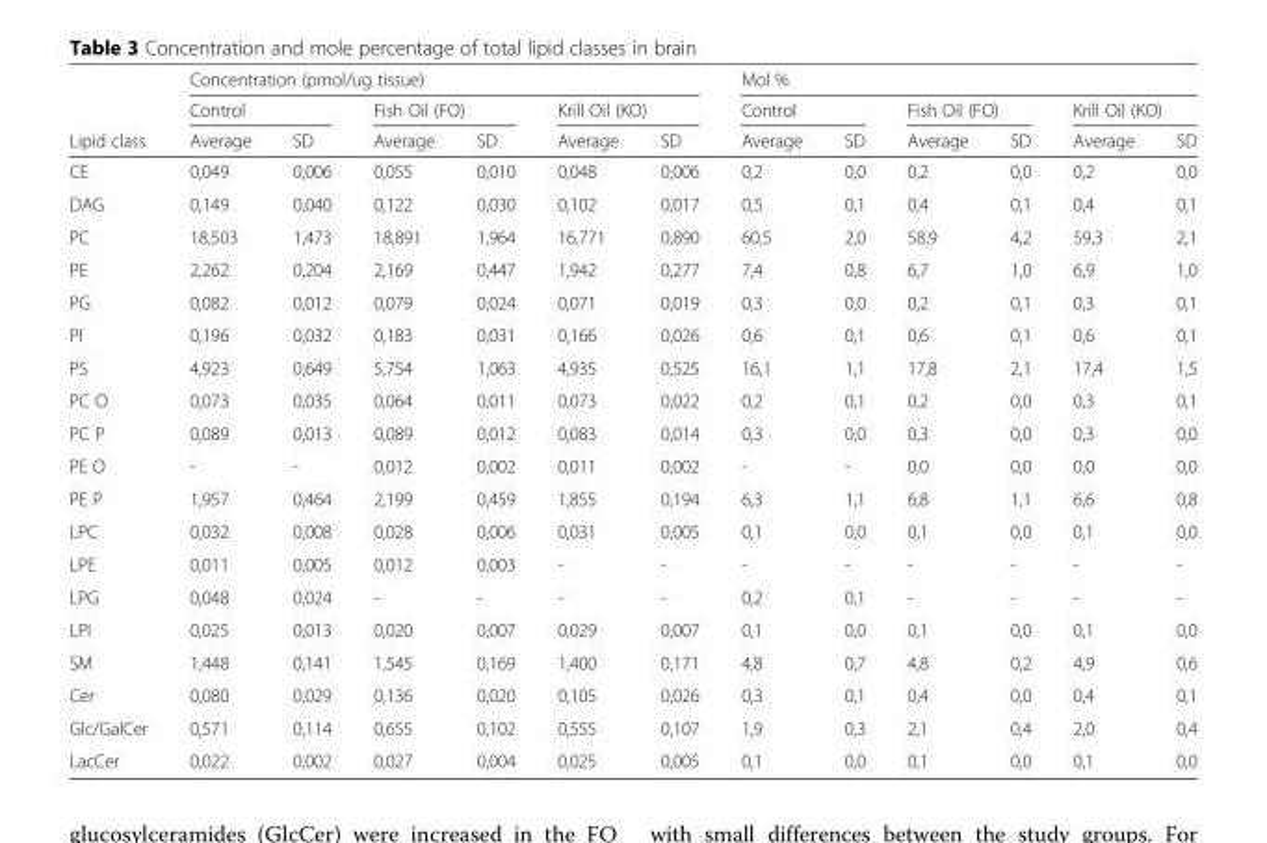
<table><thead><tr><td rowspan="3">Lipid class</td><td colspan="6">Concentration (pmol/ug tissue)</td><td colspan="6">Mol %</td></tr><tr><td colspan="2">Control</td><td colspan="2">Fish Oil (FO)</td><td colspan="2">Krill Oil (KO)</td><td colspan="2">Control</td><td colspan="2">Fish Oil (FO)</td><td colspan="2">Krill Oil (KO)</td></tr><tr><td>Average</td><td>SD</td><td>Average</td><td>SD</td><td>Average</td><td>SD</td><td>Average</td><td>SD</td><td>Average</td><td>SD</td><td>Average</td><td>SD</td></tr></thead><tbody><tr><td>CE</td><td>0,049</td><td>0,006</td><td>0,055</td><td>0,010</td><td>0,048</td><td>0,006</td><td>0,2</td><td>0,0</td><td>0,2</td><td>0,0</td><td>0,2</td><td>0,0</td></tr><tr><td>DAG</td><td>0,149</td><td>0,040</td><td>0,122</td><td>0,030</td><td>0,102</td><td>0,017</td><td>0,5</td><td>0,1</td><td>0,4</td><td>0,1</td><td>0,4</td><td>0,1</td></tr><tr><td>PC</td><td>18,503</td><td>1,473</td><td>18,891</td><td>1,964</td><td>16,771</td><td>0,890</td><td>60,5</td><td>2,0</td><td>58,9</td><td>4,2</td><td>59,3</td><td>2,1</td></tr><tr><td>PE</td><td>2,262</td><td>0,204</td><td>2,169</td><td>0,447</td><td>1,942</td><td>0,277</td><td>7,4</td><td>0,8</td><td>6,7</td><td>1,0</td><td>6,9</td><td>1,0</td></tr><tr><td>PG</td><td>0,082</td><td>0,012</td><td>0,079</td><td>0,024</td><td>0,071</td><td>0,019</td><td>0,3</td><td>0,0</td><td>0,2</td><td>0,1</td><td>0,3</td><td>0,1</td></tr><tr><td>PI</td><td>0,196</td><td>0,032</td><td>0,183</td><td>0,031</td><td>0,166</td><td>0,026</td><td>0,6</td><td>0,1</td><td>0,6</td><td>0,1</td><td>0,6</td><td>0,1</td></tr><tr><td>PS</td><td>4,923</td><td>0,649</td><td>5,754</td><td>1,063</td><td>4,935</td><td>0,525</td><td>16,1</td><td>1,1</td><td>17,8</td><td>2,1</td><td>17,4</td><td>1,5</td></tr><tr><td>PC O</td><td>0,073</td><td>0,035</td><td>0,064</td><td>0,011</td><td>0,073</td><td>0,022</td><td>0,2</td><td>0,1</td><td>0,2</td><td>0,0</td><td>0,3</td><td>0,1</td></tr><tr><td>PC P</td><td>0,089</td><td>0,013</td><td>0,089</td><td>0,012</td><td>0,083</td><td>0,014</td><td>0,3</td><td>0,0</td><td>0,3</td><td>0,0</td><td>0,3</td><td>0,0</td></tr><tr><td>PE O</td><td>-</td><td>-</td><td>0,012</td><td>0,002</td><td>0,011</td><td>0,002</td><td>-</td><td>-</td><td>0,0</td><td>0,0</td><td>0,0</td><td>0,0</td></tr><tr><td>PE P</td><td>1,957</td><td>0,464</td><td>2,199</td><td>0,459</td><td>1,855</td><td>0,194</td><td>6,3</td><td>1,1</td><td>6,8</td><td>1,1</td><td>6,6</td><td>0,8</td></tr><tr><td>LPC</td><td>0,032</td><td>0,008</td><td>0,028</td><td>0,006</td><td>0,031</td><td>0,005</td><td>0,1</td><td>0,0</td><td>0,1</td><td>0,0</td><td>0,1</td><td>0,0</td></tr><tr><td>LPE</td><td>0,011</td><td>0,005</td><td>0,012</td><td>0,003</td><td>-</td><td>-</td><td>-</td><td>-</td><td>-</td><td>-</td><td>-</td><td>-</td></tr><tr><td>LPG</td><td>0,048</td><td>0,024</td><td>-</td><td>-</td><td>-</td><td>-</td><td>0,2</td><td>0,1</td><td>-</td><td>-</td><td>-</td><td>-</td></tr><tr><td>LPI</td><td>0,025</td><td>0,013</td><td>0,020</td><td>0,007</td><td>0,029</td><td>0,007</td><td>0,1</td><td>0,0</td><td>0,1</td><td>0,0</td><td>0,1</td><td>0,0</td></tr><tr><td>SM</td><td>1,448</td><td>0,141</td><td>1,545</td><td>0,169</td><td>1,400</td><td>0,171</td><td>4,8</td><td>0,7</td><td>4,8</td><td>0,2</td><td>4,9</td><td>0,6</td></tr><tr><td>Cer</td><td>0,080</td><td>0,029</td><td>0,136</td><td>0,020</td><td>0,105</td><td>0,026</td><td>0,3</td><td>0,1</td><td>0,4</td><td>0,0</td><td>0,4</td><td>0,1</td></tr><tr><td>Glc/GalCer</td><td>0,571</td><td>0,114</td><td>0,655</td><td>0,102</td><td>0,555</td><td>0,107</td><td>1,9</td><td>0,3</td><td>2,1</td><td>0,4</td><td>2,0</td><td>0,4</td></tr><tr><td>LacCer</td><td>0,022</td><td>0,002</td><td>0,027</td><td>0,004</td><td>0,025</td><td>0,005</td><td>0,1</td><td>0,0</td><td>0,1</td><td>0,0</td><td>0,1</td><td>0,0</td></tr></tbody></table>